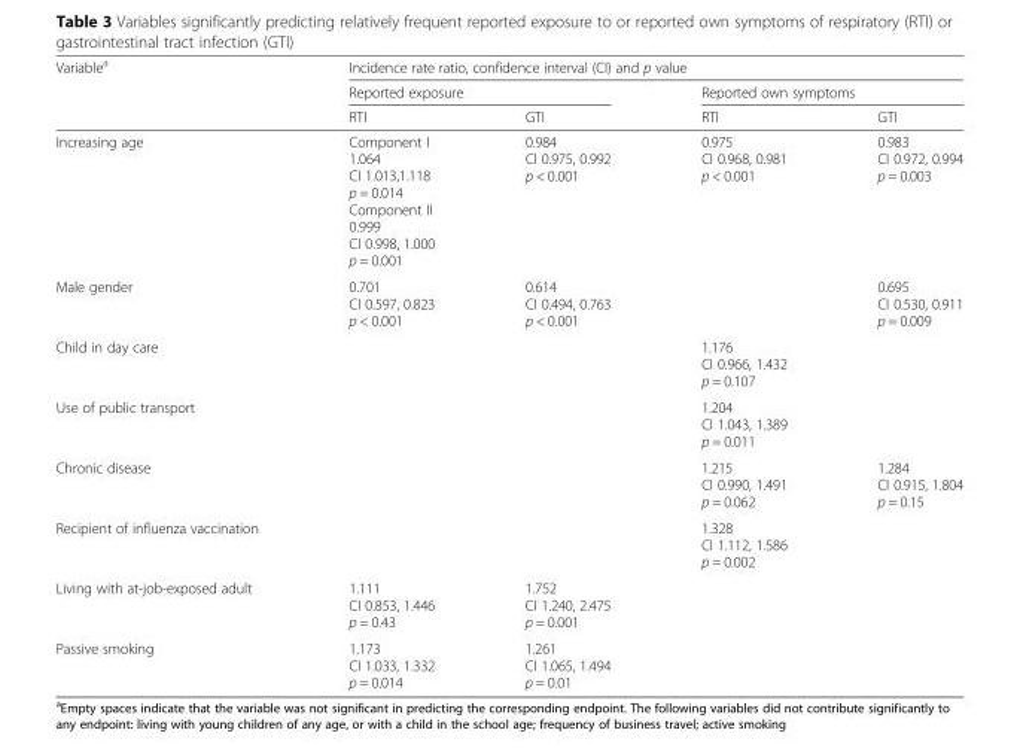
<table><thead><tr><td rowspan="3">Variable<sup>a</sup></td><td colspan="4">Incidence rate ratio, confidence interval (CI) and p value</td></tr><tr><td colspan="2">Reported exposure</td><td colspan="2">Reported own symptoms</td></tr><tr><td>RTI</td><td>GTI</td><td>RTI</td><td>GTI</td></tr></thead><tbody><tr><td>Increasing age</td><td>Component I 1.064 CI 1.013,1.118 p = 0.014 Component II 0.999 CI 0.998, 1.000 p = 0.001</td><td>0.984 CI 0.975, 0.992 p &lt; 0.001</td><td>0.975 CI 0.968, 0.981 p &lt; 0.001</td><td>0.983 CI 0.972, 0.994 p = 0.003</td></tr><tr><td>Male gender</td><td>0.701 CI 0.597, 0.823 p &lt; 0.001</td><td>0.614 CI 0.494, 0.763 p &lt; 0.001</td><td></td><td>0.695 CI 0.530, 0.911 p = 0.009</td></tr><tr><td>Child in day care</td><td></td><td></td><td>1.176 CI 0.966, 1.432 p = 0.107</td><td></td></tr><tr><td>Use of public transport</td><td></td><td></td><td>1.204 CI 1.043, 1.389 p = 0.011</td><td></td></tr><tr><td>Chronic disease</td><td></td><td></td><td>1.215 CI 0.990, 1.491 p = 0.062</td><td>1.284 CI 0.915, 1.804 p = 0.15</td></tr><tr><td>Recipient of influenza vaccination</td><td></td><td></td><td>1.328 CI 1.112, 1.586 p = 0.002</td><td></td></tr><tr><td>Living with at-job-exposed adult</td><td>1.111 CI 0.853, 1.446 p = 0.43</td><td>1.752 CI 1.240, 2.475 p = 0.001</td><td></td><td></td></tr><tr><td>Passive smoking</td><td>1.173 CI 1.033, 1.332 p = 0.014</td><td>1.261 CI 1.065, 1.494 p = 0.01</td><td></td><td></td></tr></tbody></table>